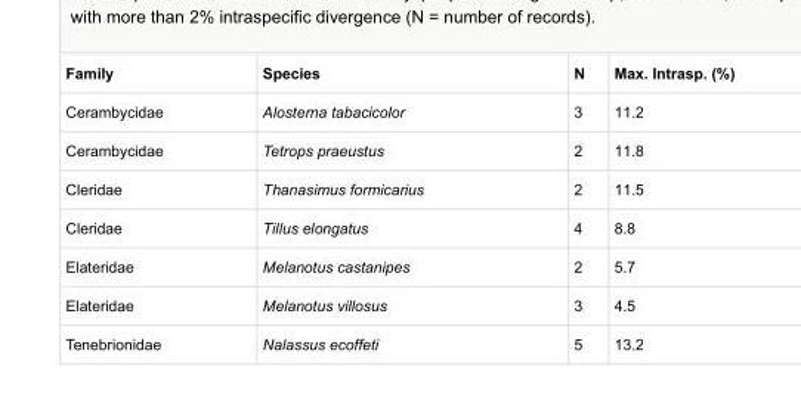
<table><thead><tr><td>Family</td><td>Species</td><td>N</td><td>Max. Intrasp. (%)</td></tr></thead><tbody><tr><td>Cerambycidae</td><td>Alosterna tabacicolor</td><td>3</td><td>11.2</td></tr><tr><td>Cerambycidae</td><td>Tetrops praeustus</td><td>2</td><td>11.8</td></tr><tr><td>Cleridae</td><td>Thanasimus formicarius</td><td>2</td><td>11.5</td></tr><tr><td>Cleridae</td><td>Tillus elongatus</td><td>4</td><td>8.8</td></tr><tr><td>Elateridae</td><td>Melanotus castanipes</td><td>2</td><td>5.7</td></tr><tr><td>Elateridae</td><td>Melanotus villosus</td><td>3</td><td>4.5</td></tr><tr><td>Tenebrionidae</td><td>Nalassus ecoffeti</td><td>5</td><td>13.2</td></tr></tbody></table>